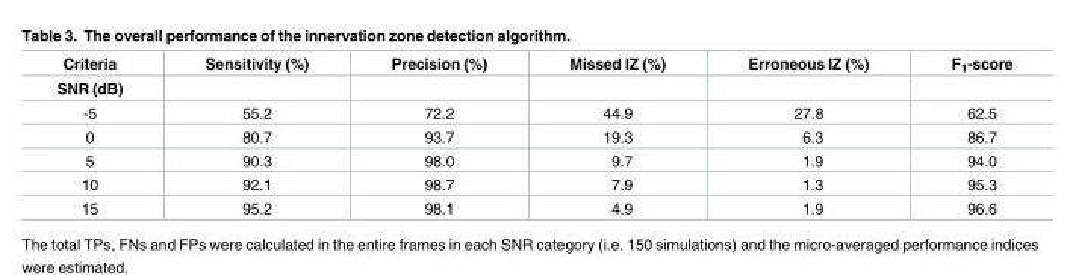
<table><thead><tr><td rowspan="2">Criteria SNR (dB)</td><td rowspan="2">Sensitivity (%)</td><td rowspan="2">Precision (%)</td><td rowspan="2">Missed IZ (%)</td><td rowspan="2">Erroneous IZ (%)</td><td rowspan="2">F<sub>1</sub>-score</td></tr><tr></tr></thead><tbody><tr><td>-5</td><td>55.2</td><td>72.2</td><td>44.9</td><td>27.8</td><td>62.5</td></tr><tr><td>0</td><td>80.7</td><td>93.7</td><td>19.3</td><td>6.3</td><td>86.7</td></tr><tr><td>5</td><td>90.3</td><td>98.0</td><td>9.7</td><td>1.9</td><td>94.0</td></tr><tr><td>10</td><td>92.1</td><td>98.7</td><td>7.9</td><td>1.3</td><td>95.3</td></tr><tr><td>15</td><td>95.2</td><td>98.1</td><td>4.9</td><td>1.9</td><td>96.6</td></tr></tbody></table>